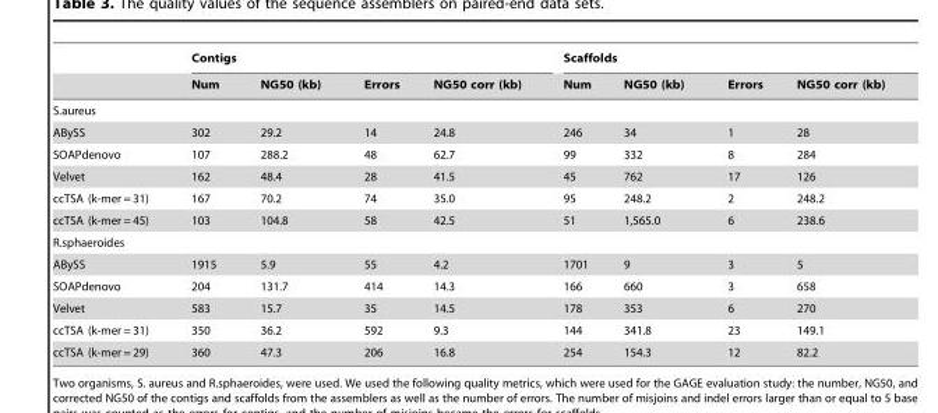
<table><thead><tr><td rowspan="2"></td><td colspan="4">Contigs</td><td colspan="4">Scaffolds</td></tr><tr><td>Num</td><td>NG50 (kb)</td><td>Errors</td><td>NG50 corr (kb)</td><td>Num</td><td>NG50 (kb)</td><td>Errors</td><td>NG50 corr (kb)</td></tr></thead><tbody><tr><td colspan="9">S.aureus</td></tr><tr><td>ABySS</td><td>302</td><td>29.2</td><td>14</td><td>24.8</td><td>246</td><td>34</td><td>1</td><td>28</td></tr><tr><td>SOAPdenovo</td><td>107</td><td>288.2</td><td>48</td><td>62.7</td><td>99</td><td>332</td><td>8</td><td>284</td></tr><tr><td>Velvet</td><td>162</td><td>48.4</td><td>28</td><td>41.5</td><td>45</td><td>762</td><td>17</td><td>126</td></tr><tr><td>ccTSA (k-mer = 31)</td><td>167</td><td>70.2</td><td>74</td><td>35.0</td><td>95</td><td>248.2</td><td>2</td><td>248.2</td></tr><tr><td>ccTSA (k-mer = 45)</td><td>103</td><td>104.8</td><td>58</td><td>42.5</td><td>51</td><td>1,565.0</td><td>6</td><td>238.6</td></tr><tr><td colspan="9">R.sphaeroides</td></tr><tr><td>ABySS</td><td>1915</td><td>5.9</td><td>55</td><td>4.2</td><td>1701</td><td>9</td><td>3</td><td>5</td></tr><tr><td>SOAPdenovo</td><td>204</td><td>131.7</td><td>414</td><td>14.3</td><td>166</td><td>660</td><td>3</td><td>658</td></tr><tr><td>Velvet</td><td>583</td><td>15.7</td><td>35</td><td>14.5</td><td>178</td><td>353</td><td>6</td><td>270</td></tr><tr><td>ccTSA (k-mer = 31)</td><td>350</td><td>36.2</td><td>592</td><td>9.3</td><td>144</td><td>341.8</td><td>23</td><td>149.1</td></tr><tr><td>ccTSA (k-mer = 29)</td><td>360</td><td>47.3</td><td>206</td><td>16.8</td><td>254</td><td>154.3</td><td>12</td><td>82.2</td></tr></tbody></table>